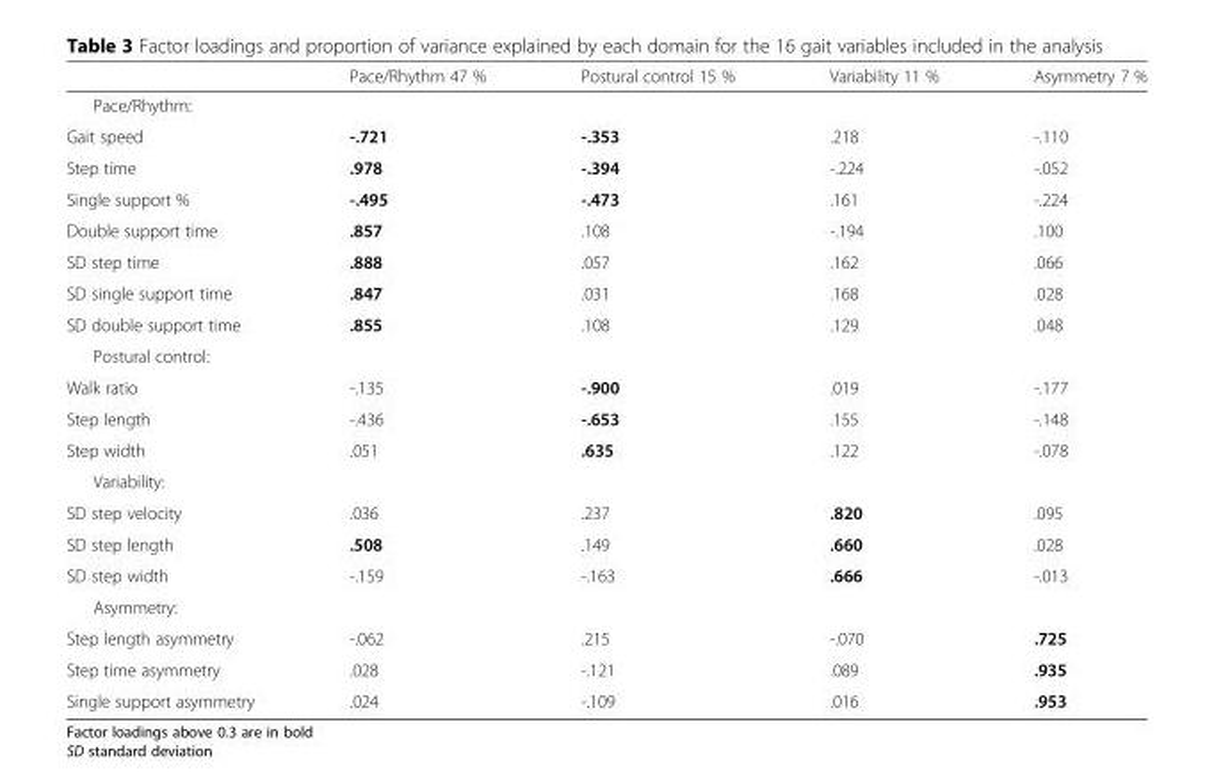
<table><thead><tr><td></td><td>Pace/Rhythm 47 %</td><td>Postural control 15 %</td><td>Variability 11 %</td><td>Asymmetry 7 %</td></tr></thead><tbody><tr><td colspan="5">Pace/Rhythm:</td></tr><tr><td>Gait speed</td><td>-.721</td><td>-.353</td><td>.218</td><td>-.110</td></tr><tr><td>Step time</td><td>.978</td><td>-.394</td><td>-.224</td><td>-.052</td></tr><tr><td>Single support %</td><td>-.495</td><td>-.473</td><td>.161</td><td>-.224</td></tr><tr><td>Double support time</td><td>.857</td><td>.108</td><td>-.194</td><td>.100</td></tr><tr><td>SD step time</td><td>.888</td><td>.057</td><td>.162</td><td>.066</td></tr><tr><td>SD single support time</td><td>.847</td><td>.031</td><td>.168</td><td>.028</td></tr><tr><td>SD double support time</td><td>.855</td><td>.108</td><td>.129</td><td>.048</td></tr><tr><td colspan="5">Postural control:</td></tr><tr><td>Walk ratio</td><td>-.135</td><td>-.900</td><td>.019</td><td>-.177</td></tr><tr><td>Step length</td><td>-.436</td><td>-.653</td><td>.155</td><td>-.148</td></tr><tr><td>Step width</td><td>.051</td><td>.635</td><td>.122</td><td>-.078</td></tr><tr><td colspan="5">Variability:</td></tr><tr><td>SD step velocity</td><td>.036</td><td>.237</td><td>.820</td><td>.095</td></tr><tr><td>SD step length</td><td>.508</td><td>.149</td><td>.660</td><td>.028</td></tr><tr><td>SD step width</td><td>-.159</td><td>-.163</td><td>.666</td><td>-.013</td></tr><tr><td colspan="5">Asymmetry:</td></tr><tr><td>Step length asymmetry</td><td>-.062</td><td>.215</td><td>-.070</td><td>.725</td></tr><tr><td>Step time asymmetry</td><td>.028</td><td>-.121</td><td>.089</td><td>.935</td></tr><tr><td>Single support asymmetry</td><td>.024</td><td>-.109</td><td>.016</td><td>.953</td></tr></tbody></table>